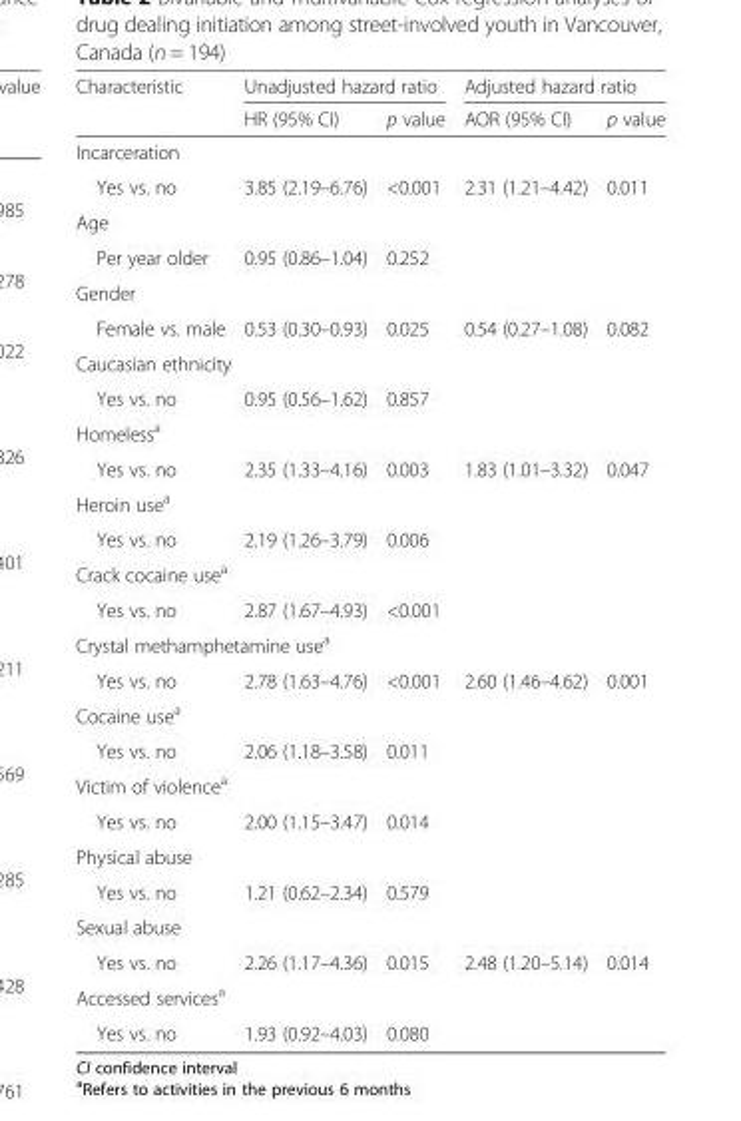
<table><thead><tr><td rowspan="2">Characteristic</td><td colspan="2">Unadjusted hazard ratio</td><td colspan="2">Adjusted hazard ratio</td></tr><tr><td>HR (95% CI)</td><td>p value</td><td>AOR (95% CI)</td><td>p value</td></tr></thead><tbody><tr><td colspan="5">Incarceration</td></tr><tr><td>Yes vs. no</td><td>3.85 (2.19–6.76)</td><td>&lt;0.001</td><td>2.31 (1.21–4.42)</td><td>0.011</td></tr><tr><td colspan="5">Age</td></tr><tr><td>Per year older</td><td>0.95 (0.86–1.04)</td><td>0.252</td><td></td><td></td></tr><tr><td colspan="5">Gender</td></tr><tr><td>Female vs. male</td><td>0.53 (0.30–0.93)</td><td>0.025</td><td>0.54 (0.27–1.08)</td><td>0.082</td></tr><tr><td colspan="5">Caucasian ethnicity</td></tr><tr><td>Yes vs. no</td><td>0.95 (0.56–1.62)</td><td>0.857</td><td></td><td></td></tr><tr><td colspan="5">Homeless<sup>a</sup></td></tr><tr><td>Yes vs. no</td><td>2.35 (1.33–4.16)</td><td>0.003</td><td>1.83 (1.01–3.32)</td><td>0.047</td></tr><tr><td colspan="5">Heroin use<sup>a</sup></td></tr><tr><td>Yes vs. no</td><td>2.19 (1.26–3.79)</td><td>0.006</td><td></td><td></td></tr><tr><td colspan="5">Crack cocaine use<sup>a</sup></td></tr><tr><td>Yes vs. no</td><td>2.87 (1.67–4.93)</td><td>&lt;0.001</td><td></td><td></td></tr><tr><td colspan="5">Crystal methamphetamine use<sup>a</sup></td></tr><tr><td>Yes vs. no</td><td>2.78 (1.63–4.76)</td><td>&lt;0.001</td><td>2.60 (1.46–4.62)</td><td>0.001</td></tr><tr><td colspan="5">Cocaine use<sup>a</sup></td></tr><tr><td>Yes vs. no</td><td>2.06 (1.18–3.58)</td><td>0.011</td><td></td><td></td></tr><tr><td colspan="5">Victim of violence<sup>a</sup></td></tr><tr><td>Yes vs. no</td><td>2.00 (1.15–3.47)</td><td>0.014</td><td></td><td></td></tr><tr><td colspan="5">Physical abuse</td></tr><tr><td>Yes vs. no</td><td>1.21 (0.62–2.34)</td><td>0.579</td><td></td><td></td></tr><tr><td colspan="5">Sexual abuse</td></tr><tr><td>Yes vs. no</td><td>2.26 (1.17–4.36)</td><td>0.015</td><td>2.48 (1.20–5.14)</td><td>0.014</td></tr><tr><td colspan="5">Accessed services<sup>a</sup></td></tr><tr><td>Yes vs. no</td><td>1.93 (0.92–4.03)</td><td>0.080</td><td></td><td></td></tr></tbody></table>